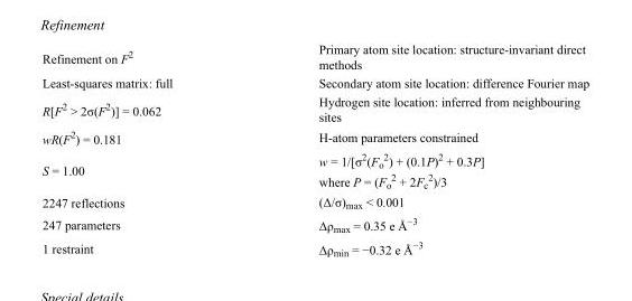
<table><tbody><tr><td>Refinement on F<sup>2</sup></td><td>Primary atom site location: structure-invariant direct methods</td></tr><tr><td>Least-squares matrix: full</td><td>Secondary atom site location: difference Fourier map</td></tr><tr><td>R[F<sup>2</sup> &gt; 2σ(F<sup>2</sup>)] = 0.062</td><td>Hydrogen site location: inferred from neighbouring sites</td></tr><tr><td>wR(F<sup>2</sup>) = 0.181</td><td>H-atom parameters constrained</td></tr><tr><td>S = 1.00</td><td>w = 1/[σ<sup>2</sup>(F<sub>o</sub> <sup>2</sup>) + (0.1P)<sup>2</sup> + 0.3P] where P = (F<sub>o</sub> <sup>2</sup> + 2F<sub>c</sub> <sup>2</sup>)/3</td></tr><tr><td>2247 reflections</td><td>(Δ/σ)<sub>max</sub> &lt; 0.001</td></tr><tr><td>247 parameters</td><td>Δρ<sub>max</sub> = 0.35 e Å<sup>−3</sup></td></tr><tr><td>1 restraint</td><td>Δρ<sub>min</sub> = −0.32 e Å<sup>−3</sup></td></tr></tbody></table>